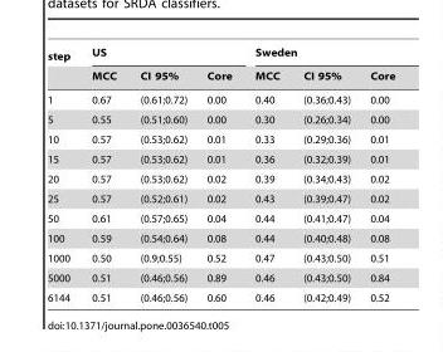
<table><thead><tr><td rowspan="2">step</td><td colspan="3">US</td><td colspan="3">Sweden</td></tr><tr><td>MCC</td><td>CI 95%</td><td>Core</td><td>MCC</td><td>CI 95%</td><td>Core</td></tr></thead><tbody><tr><td>1</td><td>0.67</td><td>(0.61;0.72)</td><td>0.00</td><td>0.40</td><td>(0.36;0.43)</td><td>0.00</td></tr><tr><td>5</td><td>0.55</td><td>(0.51;0.60)</td><td>0.00</td><td>0.30</td><td>(0.26;0.34)</td><td>0.00</td></tr><tr><td>10</td><td>0.57</td><td>(0.53;0.62)</td><td>0.01</td><td>0.33</td><td>(0.29;0.36)</td><td>0.01</td></tr><tr><td>15</td><td>0.57</td><td>(0.53;0.62)</td><td>0.01</td><td>0.36</td><td>(0.32;0.39)</td><td>0.01</td></tr><tr><td>20</td><td>0.57</td><td>(0.53;0.62)</td><td>0.02</td><td>0.39</td><td>(0.34;0.43)</td><td>0.02</td></tr><tr><td>25</td><td>0.57</td><td>(0.52;0.61)</td><td>0.02</td><td>0.43</td><td>(0.39;0.47)</td><td>0.02</td></tr><tr><td>50</td><td>0.61</td><td>(0.57;0.65)</td><td>0.04</td><td>0.44</td><td>(0.41;0.47)</td><td>0.04</td></tr><tr><td>100</td><td>0.59</td><td>(0.54;0.64)</td><td>0.08</td><td>0.44</td><td>(0.40;0.48)</td><td>0.08</td></tr><tr><td>1000</td><td>0.50</td><td>(0.9;0.55)</td><td>0.52</td><td>0.47</td><td>(0.43;0.50)</td><td>0.51</td></tr><tr><td>5000</td><td>0.51</td><td>(0.46;0.56)</td><td>0.89</td><td>0.46</td><td>(0.43;0.50)</td><td>0.84</td></tr><tr><td>6144</td><td>0.51</td><td>(0.46;0.56)</td><td>0.60</td><td>0.46</td><td>(0.42;0.49)</td><td>0.52</td></tr></tbody></table>